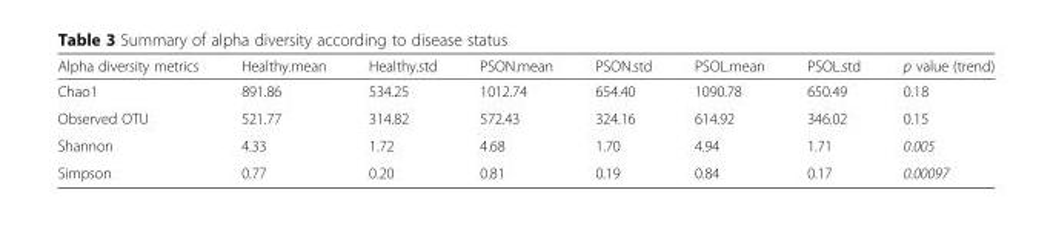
<table><thead><tr><td>Alpha diversity metrics</td><td>Healthy.mean</td><td>Healthy.std</td><td>PSON.mean</td><td>PSON.std</td><td>PSOL.mean</td><td>PSOL.std</td><td>p value (trend)</td></tr></thead><tbody><tr><td>Chao1</td><td>891.86</td><td>534.25</td><td>1012.74</td><td>654.40</td><td>1090.78</td><td>650.49</td><td>0.18</td></tr><tr><td>Observed OTU</td><td>521.77</td><td>314.82</td><td>572.43</td><td>324.16</td><td>614.92</td><td>346.02</td><td>0.15</td></tr><tr><td>Shannon</td><td>4.33</td><td>1.72</td><td>4.68</td><td>1.70</td><td>4.94</td><td>1.71</td><td>0.005</td></tr><tr><td>Simpson</td><td>0.77</td><td>0.20</td><td>0.81</td><td>0.19</td><td>0.84</td><td>0.17</td><td>0.00097</td></tr></tbody></table>